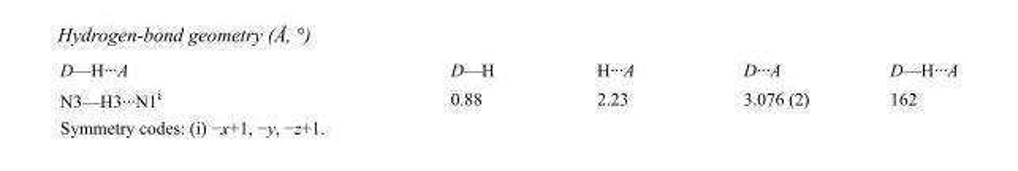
<table><tbody><tr><td>D—H···A</td><td>D—H</td><td>H···A</td><td>D···A</td><td>D—H···A</td></tr><tr><td>N3—H3···N1<sup>i</sup></td><td>0.88</td><td>2.23</td><td>3.076 (2)</td><td>162</td></tr></tbody></table>